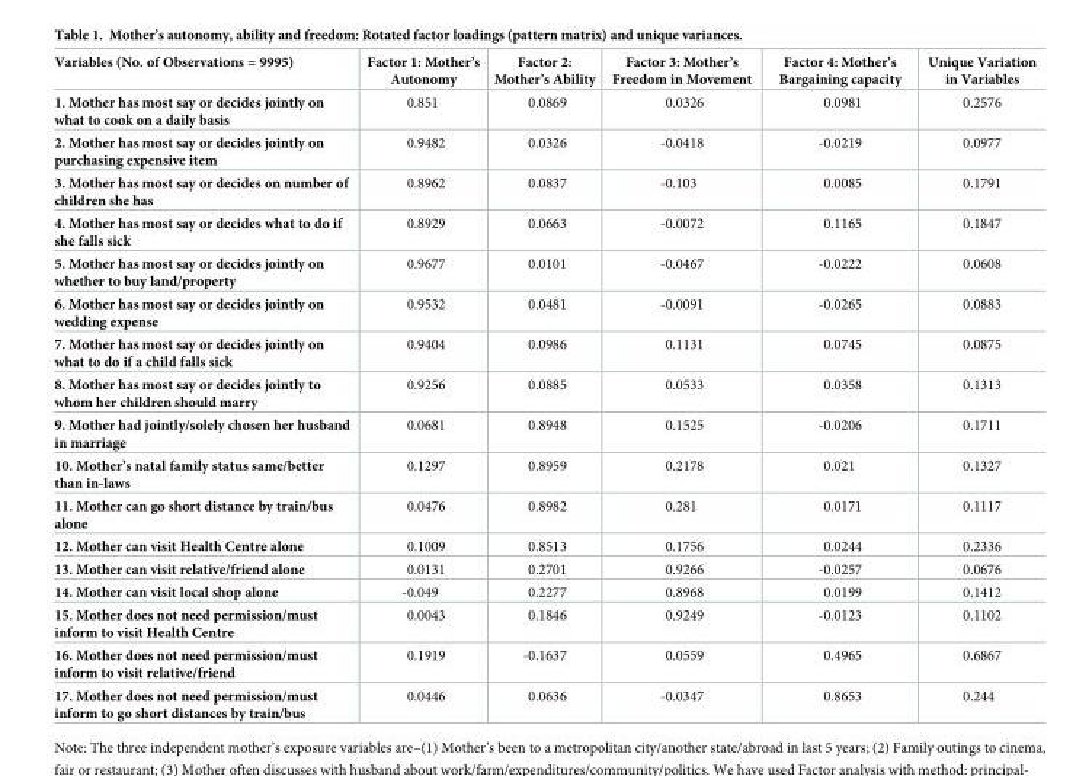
<table><thead><tr><td>Variables (No. of Observations = 9995)</td><td>Factor 1: Mother’s Autonomy</td><td>Factor 2: Mother’s Ability</td><td>Factor 3: Mother’s Freedom in Movement</td><td>Factor 4: Mother’s Bargaining capacity</td><td>Unique Variation in Variables</td></tr></thead><tbody><tr><td>1. Mother has most say or decides jointly on what to cook on a daily basis</td><td>0.851</td><td>0.0869</td><td>0.0326</td><td>0.0981</td><td>0.2576</td></tr><tr><td>2. Mother has most say or decides jointly on purchasing expensive item</td><td>0.9482</td><td>0.0326</td><td>-0.0418</td><td>-0.0219</td><td>0.0977</td></tr><tr><td>3. Mother has most say or decides on number of children she has</td><td>0.8962</td><td>0.0837</td><td>-0.103</td><td>0.0085</td><td>0.1791</td></tr><tr><td>4. Mother has most say or decides what to do if she falls sick</td><td>0.8929</td><td>0.0663</td><td>-0.0072</td><td>0.1165</td><td>0.1847</td></tr><tr><td>5. Mother has most say or decides jointly on whether to buy land/property</td><td>0.9677</td><td>0.0101</td><td>-0.0467</td><td>-0.0222</td><td>0.0608</td></tr><tr><td>6. Mother has most say or decides jointly on wedding expense</td><td>0.9532</td><td>0.0481</td><td>-0.0091</td><td>-0.0265</td><td>0.0883</td></tr><tr><td>7. Mother has most say or decides jointly on what to do if a child falls sick</td><td>0.9404</td><td>0.0986</td><td>0.1131</td><td>0.0745</td><td>0.0875</td></tr><tr><td>8. Mother has most say or decides jointly to whom her children should marry</td><td>0.9256</td><td>0.0885</td><td>0.0533</td><td>0.0358</td><td>0.1313</td></tr><tr><td>9. Mother had jointly/solely chosen her husband in marriage</td><td>0.0681</td><td>0.8948</td><td>0.1525</td><td>-0.0206</td><td>0.1711</td></tr><tr><td>10. Mother’s natal family status same/better than in-laws</td><td>0.1297</td><td>0.8959</td><td>0.2178</td><td>0.021</td><td>0.1327</td></tr><tr><td>11. Mother can go short distance by train/bus alone</td><td>0.0476</td><td>0.8982</td><td>0.281</td><td>0.0171</td><td>0.1117</td></tr><tr><td>12. Mother can visit Health Centre alone</td><td>0.1009</td><td>0.8513</td><td>0.1756</td><td>0.0244</td><td>0.2336</td></tr><tr><td>13. Mother can visit relative/friend alone</td><td>0.0131</td><td>0.2701</td><td>0.9266</td><td>-0.0257</td><td>0.0676</td></tr><tr><td>14. Mother can visit local shop alone</td><td>-0.049</td><td>0.2277</td><td>0.8968</td><td>0.0199</td><td>0.1412</td></tr><tr><td>15. Mother does not need permission/must inform to visit Health Centre</td><td>0.0043</td><td>0.1846</td><td>0.9249</td><td>-0.0123</td><td>0.1102</td></tr><tr><td>16. Mother does not need permission/must inform to visit relative/friend</td><td>0.1919</td><td>-0.1637</td><td>0.0559</td><td>0.4965</td><td>0.6867</td></tr><tr><td>17. Mother does not need permission/must inform to go short distances by train/bus</td><td>0.0446</td><td>0.0636</td><td>-0.0347</td><td>0.8653</td><td>0.244</td></tr></tbody></table>